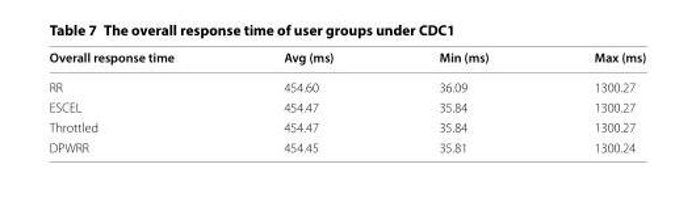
<table><thead><tr><td>Overall response time</td><td>Avg (ms)</td><td>Min (ms)</td><td>Max (ms)</td></tr></thead><tbody><tr><td>RR</td><td>454.60</td><td>36.09</td><td>1300.27</td></tr><tr><td>ESCEL</td><td>454.47</td><td>35.84</td><td>1300.27</td></tr><tr><td>Throttled</td><td>454.47</td><td>35.84</td><td>1300.27</td></tr><tr><td>DPWRR</td><td>454.45</td><td>35.81</td><td>1300.24</td></tr></tbody></table>